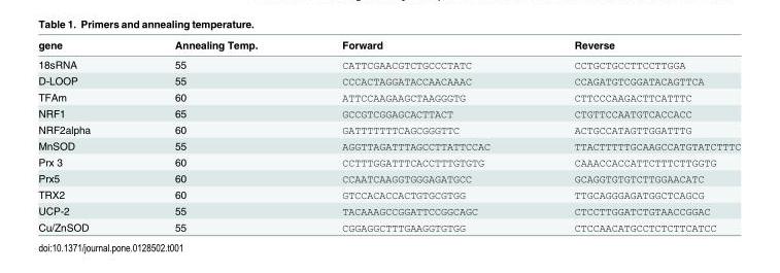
<table><thead><tr><td>gene</td><td>Annealing Temp.</td><td>Forward</td><td>Reverse</td></tr></thead><tbody><tr><td>18sRNA</td><td>55</td><td>CATTCGAACGTCTGCCCTATC</td><td>CCTGCTGCCTTCCTTGGA</td></tr><tr><td>D-LOOP</td><td>55</td><td>CCCACTAGGATACCAACAAAC</td><td>CCAGATGTCGGATACAGTTCA</td></tr><tr><td>TFAm</td><td>60</td><td>ATTCCAAGAAGCTAAGGGTG</td><td>CTTCCCAAGACTTCATTTC</td></tr><tr><td>NRF1</td><td>65</td><td>GCCGTCGGAGCACTTACT</td><td>CTGTTCCAATGTCACCACC</td></tr><tr><td>NRF2alpha</td><td>60</td><td>GATTTTTTTCAGCGGGTTC</td><td>ACTGCCATAGTTGGATTTG</td></tr><tr><td>MnSOD</td><td>55</td><td>AGGTTAGATTTAGCCTTATTCCAC</td><td>TTACTTTTTGCAAGCCATGTATCTTTC</td></tr><tr><td>Prx 3</td><td>60</td><td>CCTTTGGATTTCACCTTTGTGTG</td><td>CAAACCACCATTCTTTCTTGGTG</td></tr><tr><td>Prx5</td><td>60</td><td>CCAATCAAGGTGGGAGATGCC</td><td>GCAGGTGTGTCTTGGAACATC</td></tr><tr><td>TRX2</td><td>60</td><td>GTCCACACCACTGTGCGTGG</td><td>TTGCAGGGAGATGGCTCAGCG</td></tr><tr><td>UCP-2</td><td>55</td><td>TACAAAGCCGGATTCCGGCAGC</td><td>CTCCTTGGATCTGTAACCGGAC</td></tr><tr><td>Cu/ZnSOD</td><td>55</td><td>CGGAGGCTTTGAAGGTGTGG</td><td>CTCCAACATGCCTCTCTTCATCC</td></tr></tbody></table>